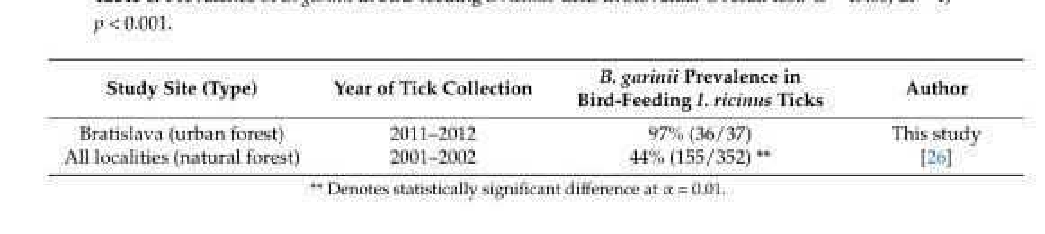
<table><thead><tr><td>Study Site (Type)</td><td>Year of Tick Collection</td><td>B. garinii Prevalence in Bird-Feeding I. ricinus Ticks</td><td>Author</td></tr></thead><tbody><tr><td>Bratislava (urban forest)</td><td>2011–2012</td><td>97% (36/37)</td><td>This study</td></tr><tr><td>All localities (natural forest)</td><td>2001–2002</td><td>44% (155/352) **</td><td>[26]</td></tr></tbody></table>